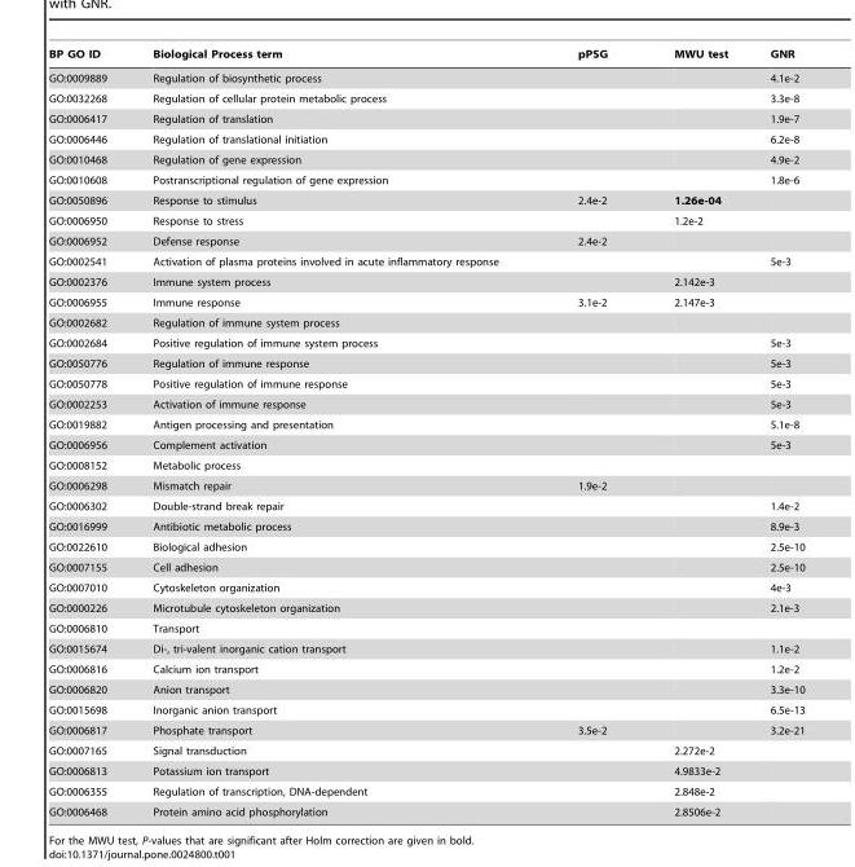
<table><thead><tr><td>BP GO ID</td><td>Biological Process term</td><td>pPSG</td><td>MWU test</td><td>GNR</td></tr></thead><tbody><tr><td>GO:0009889</td><td>Regulation of biosynthetic process</td><td></td><td></td><td>4.1e-2</td></tr><tr><td>GO:0032268</td><td>Regulation of cellular protein metabolic process</td><td></td><td></td><td>3.3e-8</td></tr><tr><td>GO:0006417</td><td>Regulation of translation</td><td></td><td></td><td>1.9e-7</td></tr><tr><td>GO:0006446</td><td>Regulation of translational initiation</td><td></td><td></td><td>6.2e-8</td></tr><tr><td>GO:0010468</td><td>Regulation of gene expression</td><td></td><td></td><td>4.9e-2</td></tr><tr><td>GO:0010608</td><td>Postranscriptional regulation of gene expression</td><td></td><td></td><td>1.8e-6</td></tr><tr><td>GO:0050896</td><td>Response to stimulus</td><td>2.4e-2</td><td>1.26e-04</td><td></td></tr><tr><td>GO:0006950</td><td>Response to stress</td><td></td><td>1.2e-2</td><td></td></tr><tr><td>GO:0006952</td><td>Defense response</td><td>2.4e-2</td><td></td><td></td></tr><tr><td>GO:0002541</td><td>Activation of plasma proteins involved in acute inflammatory response</td><td></td><td></td><td>5e-3</td></tr><tr><td>GO:0002376</td><td>Immune system process</td><td></td><td>2.142e-3</td><td></td></tr><tr><td>GO:0006955</td><td>Immune response</td><td>3.1e-2</td><td>2.147e-3</td><td></td></tr><tr><td>GO:0002682</td><td>Regulation of immune system process</td><td></td><td></td><td></td></tr><tr><td>GO:0002684</td><td>Positive regulation of immune system process</td><td></td><td></td><td>5e-3</td></tr><tr><td>GO:0050776</td><td>Regulation of immune response</td><td></td><td></td><td>5e-3</td></tr><tr><td>GO:0050778</td><td>Positive regulation of immune response</td><td></td><td></td><td>5e-3</td></tr><tr><td>GO:0002253</td><td>Activation of immune response</td><td></td><td></td><td>5e-3</td></tr><tr><td>GO:0019882</td><td>Antigen processing and presentation</td><td></td><td></td><td>5.1e-8</td></tr><tr><td>GO:0006956</td><td>Complement activation</td><td></td><td></td><td>5e-3</td></tr><tr><td>GO:0008152</td><td>Metabolic process</td><td></td><td></td><td></td></tr><tr><td>GO:0006298</td><td>Mismatch repair</td><td>1.9e-2</td><td></td><td></td></tr><tr><td>GO:0006302</td><td>Double-strand break repair</td><td></td><td></td><td>1.4e-2</td></tr><tr><td>GO:0016999</td><td>Antibiotic metabolic process</td><td></td><td></td><td>8.9e-3</td></tr><tr><td>GO:0022610</td><td>Biological adhesion</td><td></td><td></td><td>2.5e-10</td></tr><tr><td>GO:0007155</td><td>Cell adhesion</td><td></td><td></td><td>2.5e-10</td></tr><tr><td>GO:0007010</td><td>Cytoskeleton organization</td><td></td><td></td><td>4e-3</td></tr><tr><td>GO:0000226</td><td>Microtubule cytoskeleton organization</td><td></td><td></td><td>2.1e-3</td></tr><tr><td>GO:0006810</td><td>Transport</td><td></td><td></td><td></td></tr><tr><td>GO:0015674</td><td>Di-, tri-valent inorganic cation transport</td><td></td><td></td><td>1.1e-2</td></tr><tr><td>GO:0006816</td><td>Calcium ion transport</td><td></td><td></td><td>1.2e-2</td></tr><tr><td>GO:0006820</td><td>Anion transport</td><td></td><td></td><td>3.3e-10</td></tr><tr><td>GO:0015698</td><td>Inorganic anion transport</td><td></td><td></td><td>6.5e-13</td></tr><tr><td>GO:0006817</td><td>Phosphate transport</td><td>3.5e-2</td><td></td><td>3.2e-21</td></tr><tr><td>GO:0007165</td><td>Signal transduction</td><td></td><td>2.272e-2</td><td></td></tr><tr><td>GO:0006813</td><td>Potassium ion transport</td><td></td><td>4.9833e-2</td><td></td></tr><tr><td>GO:0006355</td><td>Regulation of transcription, DNA-dependent</td><td></td><td>2.848e-2</td><td></td></tr><tr><td>GO:0006468</td><td>Protein amino acid phosphorylation</td><td></td><td>2.8506e-2</td><td></td></tr></tbody></table>